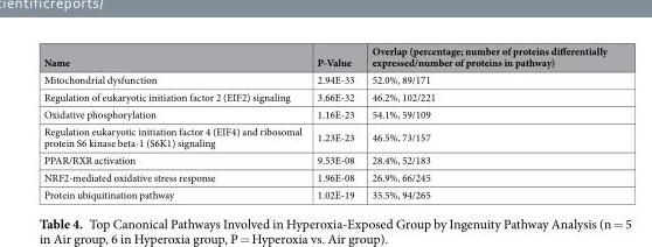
<table><thead><tr><td>Name</td><td>P-Value</td><td>Overlap (percentage; number of proteins differentially expressed/number of proteins in pathway)</td></tr></thead><tbody><tr><td>Mitochondrial dysfunction</td><td>2.94E-33</td><td>52.0%, 89/171</td></tr><tr><td>Regulation of eukaryotic initiation factor 2 (EIF2) signaling</td><td>3.66E-32</td><td>46.2%, 102/221</td></tr><tr><td>Oxidative phosphorylation</td><td>1.16E-23</td><td>54.1%, 59/109</td></tr><tr><td>Regulation eukaryotic initiation factor 4 (EIF4) and ribosomal protein S6 kinase beta-1 (S6K1) signaling</td><td>1.23E-23</td><td>46.5%, 73/157</td></tr><tr><td>PPAR/RXR activation</td><td>9.53E-08</td><td>28.4%, 52/183</td></tr><tr><td>NRF2-mediated oxidative stress response</td><td>1.96E-08</td><td>26.9%, 66/245</td></tr><tr><td>Protein ubiquitination pathway</td><td>1.02E-19</td><td>35.5%, 94/265</td></tr></tbody></table>